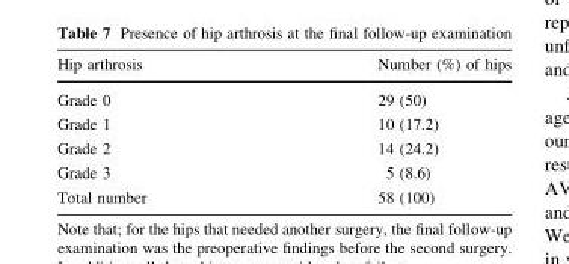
<table><thead><tr><td>Hip arthrosis</td><td>Number (%) of hips</td></tr></thead><tbody><tr><td>Grade 0</td><td>29 (50)</td></tr><tr><td>Grade 1</td><td>10 (17.2)</td></tr><tr><td>Grade 2</td><td>14 (24.2)</td></tr><tr><td>Grade 3</td><td>5 (8.6)</td></tr><tr><td>Total number</td><td>58 (100)</td></tr></tbody></table>